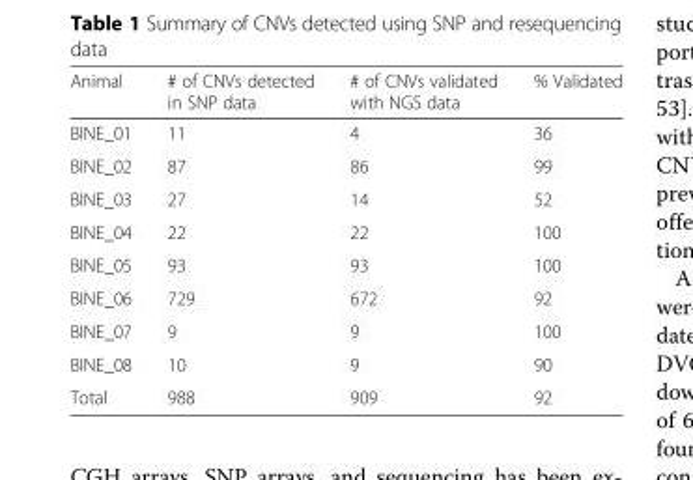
<table><thead><tr><td>Animal</td><td># of CNVs detected in SNP data</td><td># of CNVs validated with NGS data</td><td>% Validated</td></tr></thead><tbody><tr><td>BINE_01</td><td>11</td><td>4</td><td>36</td></tr><tr><td>BINE_02</td><td>87</td><td>86</td><td>99</td></tr><tr><td>BINE_03</td><td>27</td><td>14</td><td>52</td></tr><tr><td>BINE_04</td><td>22</td><td>22</td><td>100</td></tr><tr><td>BINE_05</td><td>93</td><td>93</td><td>100</td></tr><tr><td>BINE_06</td><td>729</td><td>672</td><td>92</td></tr><tr><td>BINE_07</td><td>9</td><td>9</td><td>100</td></tr><tr><td>BINE_08</td><td>10</td><td>9</td><td>90</td></tr><tr><td>Total</td><td>988</td><td>909</td><td>92</td></tr></tbody></table>